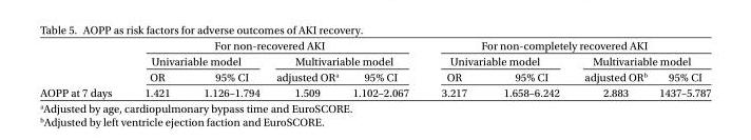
<table><thead><tr><td rowspan="3"></td><td colspan="4">For non-recovered AKI</td><td colspan="4">For non-completely recovered AKI</td></tr><tr><td colspan="2">Univariable model</td><td colspan="2">Multivariable model</td><td colspan="2">Univariable model</td><td colspan="2">Multivariable model</td></tr><tr><td>OR</td><td>95% CI</td><td>adjusted OR<sup>a</sup></td><td>95% CI</td><td>OR</td><td>95% CI</td><td>adjusted OR<sup>b</sup></td><td>95% CI</td></tr></thead><tbody><tr><td>AOPP at 7 days</td><td>1.421</td><td>1.126–1.794</td><td>1.509</td><td>1.102–2.067</td><td>3.217</td><td>1.658–6.242</td><td>2.883</td><td>1437–5.787</td></tr></tbody></table>